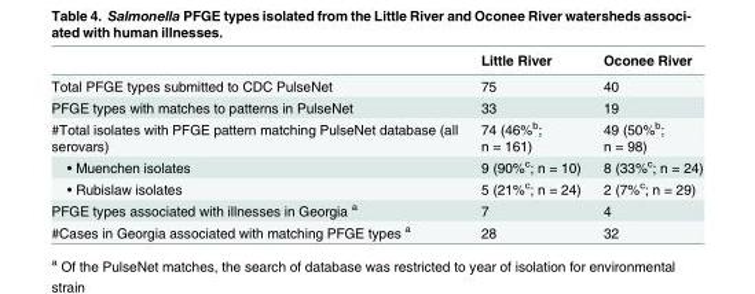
<table><thead><tr><td></td><td>Little River</td><td>Oconee River</td></tr></thead><tbody><tr><td>Total PFGE types submitted to CDC PulseNet</td><td>75</td><td>40</td></tr><tr><td>PFGE types with matches to patterns in PulseNet</td><td>33</td><td>19</td></tr><tr><td>#Total isolates with PFGE pattern matching PulseNet database (all serovars)</td><td>74 (46%<sup>b</sup>; n = 161)</td><td>49 (50%<sup>b</sup>; n = 98)</td></tr><tr><td>• Muenchen isolates</td><td>9 (90%<sup>c</sup>; n = 10)</td><td>8 (33%<sup>c</sup>; n = 24)</td></tr><tr><td>• Rubislaw isolates</td><td>5 (21%<sup>c</sup>; n = 24)</td><td>2 (7%<sup>c</sup>; n = 29)</td></tr><tr><td>PFGE types associated with illnesses in Georgia <sup>a</sup></td><td>7</td><td>4</td></tr><tr><td>#Cases in Georgia associated with matching PFGE types <sup>a</sup></td><td>28</td><td>32</td></tr></tbody></table>